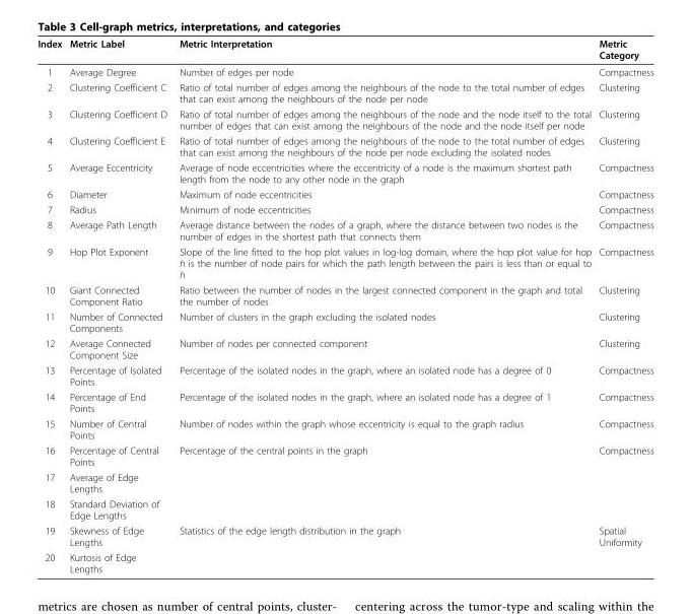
<table><thead><tr><td>Index</td><td>Metric Label</td><td>Metric Interpretation</td><td>Metric Category</td></tr></thead><tbody><tr><td>1</td><td>Average Degree</td><td>Number of edges per node</td><td>Compactness</td></tr><tr><td>2</td><td>Clustering Coefficient C</td><td>Ratio of total number of edges among the neighbours of the node to the total number of edges that can exist among the neighbours of the node per node</td><td>Clustering</td></tr><tr><td>3</td><td>Clustering Coefficient D</td><td>Ratio of total number of edges among the neighbours of the node and the node itself to the total number of edges that can exist among the neighbours of the node and the node itself per node</td><td>Clustering</td></tr><tr><td>4</td><td>Clustering Coefficient E</td><td>Ratio of total number of edges among the neighbours of the node to the total number of edges that can exist among the neighbours of the node per node excluding the isolated nodes</td><td>Clustering</td></tr><tr><td>5</td><td>Average Eccentricity</td><td>Average of node eccentricities where the eccentricity of a node is the maximum shortest path length from the node to any other node in the graph</td><td>Compactness</td></tr><tr><td>6</td><td>Diameter</td><td>Maximum of node eccentricities</td><td>Compactness</td></tr><tr><td>7</td><td>Radius</td><td>Minimum of node eccentricities</td><td>Compactness</td></tr><tr><td>8</td><td>Average Path Length</td><td>Average distance between the nodes of a graph, where the distance between two nodes is the number of edges in the shortest path that connects them</td><td>Compactness</td></tr><tr><td>9</td><td>Hop Plot Exponent</td><td>Slope of the line fitted to the hop plot values in log-log domain, where the hop plot value for hop h is the number of node pairs for which the path length between the pairs is less than or equal to h</td><td>Compactness</td></tr><tr><td>10</td><td>Giant Connected Component Ratio</td><td>Ratio between the number of nodes in the largest connected component in the graph and total the number of nodes</td><td>Clustering</td></tr><tr><td>11</td><td>Number of Connected Components</td><td>Number of clusters in the graph excluding the isolated nodes</td><td>Clustering</td></tr><tr><td>12</td><td>Average Connected Component Size</td><td>Number of nodes per connected component</td><td>Clustering</td></tr><tr><td>13</td><td>Percentage of Isolated Points</td><td>Percentage of the isolated nodes in the graph, where an isolated node has a degree of 0</td><td>Compactness</td></tr><tr><td>14</td><td>Percentage of End Points</td><td>Percentage of the isolated nodes in the graph, where an isolated node has a degree of 1</td><td>Compactness</td></tr><tr><td>15</td><td>Number of Central Points</td><td>Number of nodes within the graph whose eccentricity is equal to the graph radius</td><td>Compactness</td></tr><tr><td>16</td><td>Percentage of Central Points</td><td>Percentage of the central points in the graph</td><td>Compactness</td></tr><tr><td>17</td><td>Average of Edge Lengths</td><td></td><td></td></tr><tr><td>18</td><td>Standard Deviation of Edge Lengths</td><td></td><td></td></tr><tr><td>19</td><td>Skewness of Edge Lengths</td><td>Statistics of the edge length distribution in the graph</td><td>Spatial Uniformity</td></tr><tr><td>20</td><td>Kurtosis of Edge Lengths</td><td></td><td></td></tr></tbody></table>